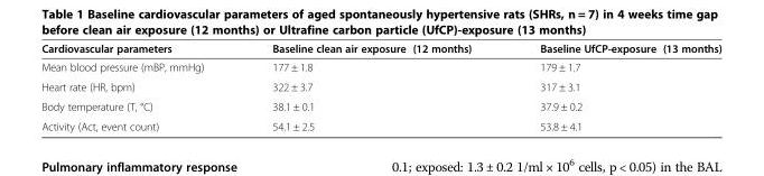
<table><thead><tr><td>Cardiovascular parameters</td><td>Baseline clean air exposure (12 months)</td><td>Baseline UfCP-exposure (13 months)</td></tr></thead><tbody><tr><td>Mean blood pressure (mBP, mmHg)</td><td>177 ± 1.8</td><td>179 ± 1.7</td></tr><tr><td>Heart rate (HR, bpm)</td><td>322 ± 3.7</td><td>317 ± 3.1</td></tr><tr><td>Body temperature (T, °C)</td><td>38.1 ± 0.1</td><td>37.9 ± 0.2</td></tr><tr><td>Activity (Act, event count)</td><td>54.1 ± 2.5</td><td>53.8 ± 4.1</td></tr></tbody></table>